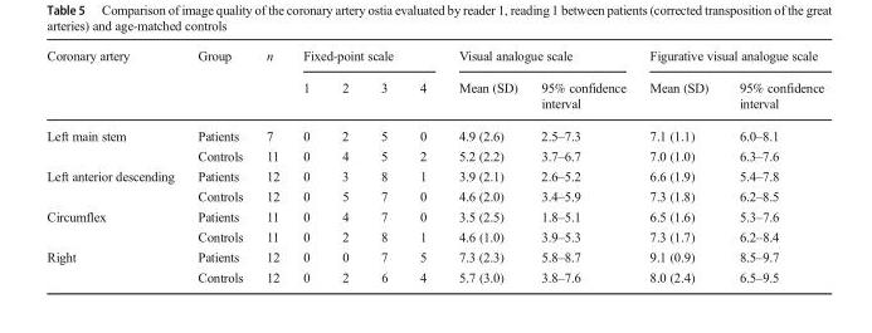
<table><thead><tr><td rowspan="2">Coronary artery</td><td rowspan="2">Group</td><td rowspan="2">n</td><td colspan="4">Fixed-point scale</td><td colspan="2">Visual analogue scale</td><td colspan="2">Figurative visual analogue scale</td></tr><tr><td>1</td><td>2</td><td>3</td><td>4</td><td>Mean (SD)</td><td>95% confidence interval</td><td>Mean (SD)</td><td>95% confidence interval</td></tr></thead><tbody><tr><td rowspan="2">Left main stem</td><td>Patients</td><td>7</td><td>0</td><td>2</td><td>5</td><td>0</td><td>4.9 (2.6)</td><td>2.5–7.3</td><td>7.1 (1.1)</td><td>6.0–8.1</td></tr><tr><td>Controls</td><td>11</td><td>0</td><td>4</td><td>5</td><td>2</td><td>5.2 (2.2)</td><td>3.7–6.7</td><td>7.0 (1.0)</td><td>6.3–7.6</td></tr><tr><td rowspan="2">Left anterior descending</td><td>Patients</td><td>12</td><td>0</td><td>3</td><td>8</td><td>1</td><td>3.9 (2.1)</td><td>2.6–5.2</td><td>6.6 (1.9)</td><td>5.4–7.8</td></tr><tr><td>Controls</td><td>12</td><td>0</td><td>5</td><td>7</td><td>0</td><td>4.6 (2.0)</td><td>3.4–5.9</td><td>7.3 (1.8)</td><td>6.2–8.5</td></tr><tr><td rowspan="2">Circumflex</td><td>Patients</td><td>11</td><td>0</td><td>4</td><td>7</td><td>0</td><td>3.5 (2.5)</td><td>1.8–5.1</td><td>6.5 (1.6)</td><td>5.3–7.6</td></tr><tr><td>Controls</td><td>11</td><td>0</td><td>2</td><td>8</td><td>1</td><td>4.6 (1.0)</td><td>3.9–5.3</td><td>7.3 (1.7)</td><td>6.2–8.4</td></tr><tr><td rowspan="2">Right</td><td>Patients</td><td>12</td><td>0</td><td>0</td><td>7</td><td>5</td><td>7.3 (2.3)</td><td>5.8–8.7</td><td>9.1 (0.9)</td><td>8.5–9.7</td></tr><tr><td>Controls</td><td>12</td><td>0</td><td>2</td><td>6</td><td>4</td><td>5.7 (3.0)</td><td>3.8–7.6</td><td>8.0 (2.4)</td><td>6.5–9.5</td></tr></tbody></table>